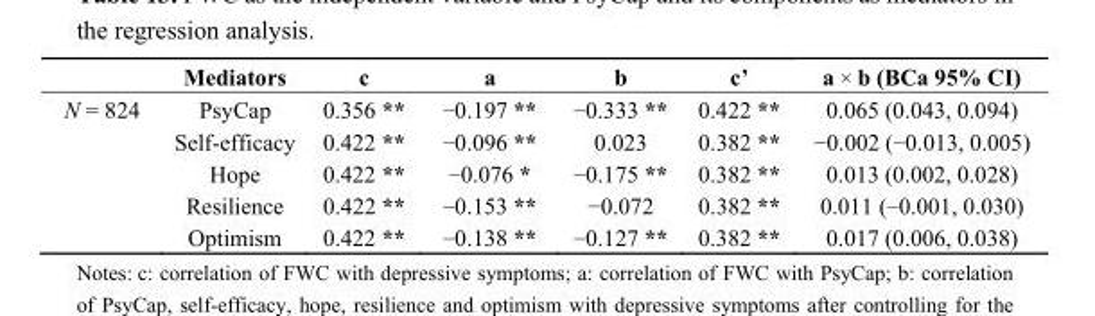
<table><thead><tr><td></td><td>Mediators</td><td>c</td><td>a</td><td>b</td><td>c’</td><td>a × b (BCa 95% CI)</td></tr></thead><tbody><tr><td rowspan="5">N = 824</td><td>PsyCap</td><td>0.356 **</td><td>−0.197 **</td><td>−0.333 **</td><td>0.422 **</td><td>0.065 (0.043, 0.094)</td></tr><tr><td>Self-efficacy</td><td>0.422 **</td><td>−0.096 **</td><td>0.023</td><td>0.382 **</td><td>−0.002 (−0.013, 0.005)</td></tr><tr><td>Hope</td><td>0.422 **</td><td>−0.076 *</td><td>−0.175 **</td><td>0.382 **</td><td>0.013 (0.002, 0.028)</td></tr><tr><td>Resilience</td><td>0.422 **</td><td>−0.153 **</td><td>−0.072</td><td>0.382 **</td><td>0.011 (−0.001, 0.030)</td></tr><tr><td>Optimism</td><td>0.422 **</td><td>−0.138 **</td><td>−0.127 **</td><td>0.382 **</td><td>0.017 (0.006, 0.038)</td></tr></tbody></table>